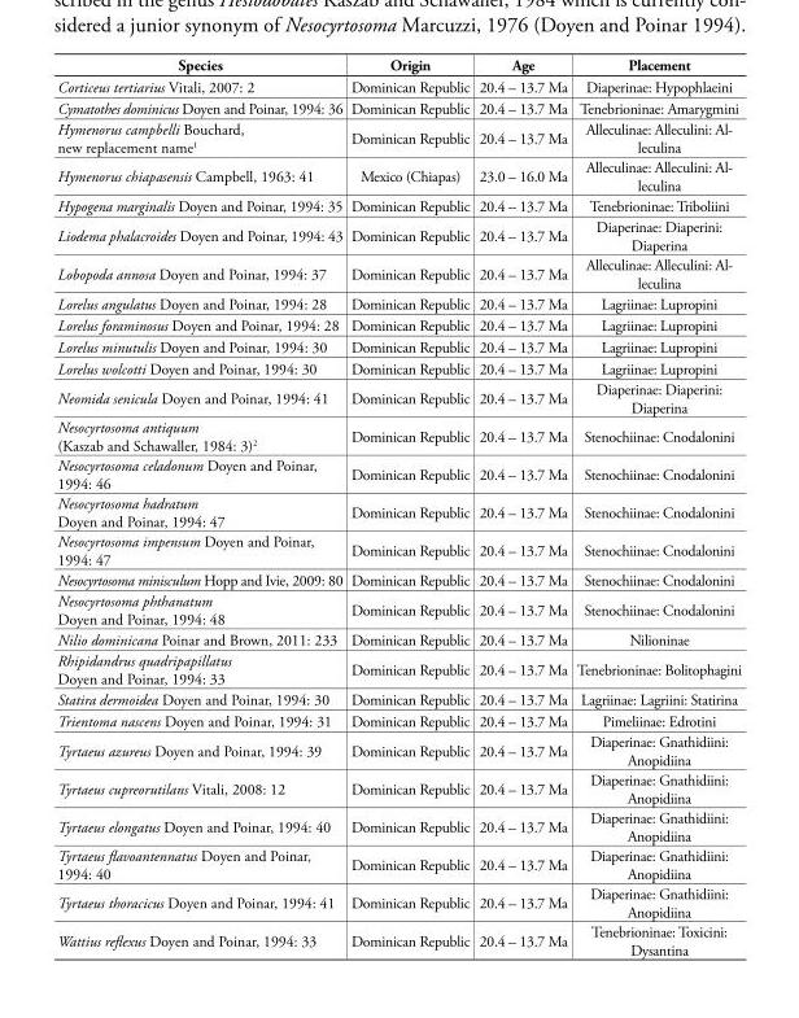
<table><thead><tr><td>Species</td><td>Origin</td><td>Age</td><td>Placement</td></tr></thead><tbody><tr><td>Corticeus tertiarius Vitali, 2007: 2</td><td>Dominican Republic</td><td>20.4 – 13.7 Ma</td><td>Diaperinae: Hypophlaeini</td></tr><tr><td>Cymatothes dominicus Doyen and Poinar, 1994: 36</td><td>Dominican Republic</td><td>20.4 – 13.7 Ma</td><td>Tenebrioninae: Amarygmini</td></tr><tr><td>Hymenorus campbelli Bouchard, new replacement name<sup>1</sup></td><td>Dominican Republic</td><td>20.4 – 13.7 Ma</td><td>Alleculinae: Alleculini: Al- leculina</td></tr><tr><td>Hymenorus chiapasensis Campbell, 1963: 41</td><td>Mexico (Chiapas)</td><td>23.0 – 16.0 Ma</td><td>Alleculinae: Alleculini: Al- leculina</td></tr><tr><td>Hypogena marginalis Doyen and Poinar, 1994: 35</td><td>Dominican Republic</td><td>20.4 – 13.7 Ma</td><td>Tenebrioninae: Triboliini</td></tr><tr><td>Liodema phalacroides Doyen and Poinar, 1994: 43</td><td>Dominican Republic</td><td>20.4 – 13.7 Ma</td><td>Diaperinae: Diaperini: Diaperina</td></tr><tr><td>Lobopoda annosa Doyen and Poinar, 1994: 37</td><td>Dominican Republic</td><td>20.4 – 13.7 Ma</td><td>Alleculinae: Alleculini: Al- leculina</td></tr><tr><td>Lorelus angulatus Doyen and Poinar, 1994: 28</td><td>Dominican Republic</td><td>20.4 – 13.7 Ma</td><td>Lagriinae: Lupropini</td></tr><tr><td>Lorelus foraminosus Doyen and Poinar, 1994: 28</td><td>Dominican Republic</td><td>20.4 – 13.7 Ma</td><td>Lagriinae: Lupropini</td></tr><tr><td>Lorelus minutulis Doyen and Poinar, 1994: 30</td><td>Dominican Republic</td><td>20.4 – 13.7 Ma</td><td>Lagriinae: Lupropini</td></tr><tr><td>Lorelus wolcotti Doyen and Poinar, 1994: 30</td><td>Dominican Republic</td><td>20.4 – 13.7 Ma</td><td>Lagriinae: Lupropini</td></tr><tr><td>Neomida senicula Doyen and Poinar, 1994: 41</td><td>Dominican Republic</td><td>20.4 – 13.7 Ma</td><td>Diaperinae: Diaperini: Diaperina</td></tr><tr><td>Nesocyrtosoma antiquum (Kaszab and Schawaller, 1984: 3)<sup>2</sup></td><td>Dominican Republic</td><td>20.4 – 13.7 Ma</td><td>Stenochiinae: Cnodalonini</td></tr><tr><td>Nesocyrtosoma celadonum Doyen and Poinar, 1994: 46</td><td>Dominican Republic</td><td>20.4 – 13.7 Ma</td><td>Stenochiinae: Cnodalonini</td></tr><tr><td>Nesocyrtosoma hadratum Doyen and Poinar, 1994: 47</td><td>Dominican Republic</td><td>20.4 – 13.7 Ma</td><td>Stenochiinae: Cnodalonini</td></tr><tr><td>Nesocyrtosoma impensum Doyen and Poinar, 1994: 47</td><td>Dominican Republic</td><td>20.4 – 13.7 Ma</td><td>Stenochiinae: Cnodalonini</td></tr><tr><td>Nesocyrtosoma minisculum Hopp and Ivie, 2009: 80</td><td>Dominican Republic</td><td>20.4 – 13.7 Ma</td><td>Stenochiinae: Cnodalonini</td></tr><tr><td>Nesocyrtosoma phthanatum Doyen and Poinar, 1994: 48</td><td>Dominican Republic</td><td>20.4 – 13.7 Ma</td><td>Stenochiinae: Cnodalonini</td></tr><tr><td>Nilio dominicana Poinar and Brown, 2011: 233</td><td>Dominican Republic</td><td>20.4 – 13.7 Ma</td><td>Nilioninae</td></tr><tr><td>Rhipidandrus quadripapillatus Doyen and Poinar, 1994: 33</td><td>Dominican Republic</td><td>20.4 – 13.7 Ma</td><td>Tenebrioninae: Bolitophagini</td></tr><tr><td>Statira dermoidea Doyen and Poinar, 1994: 30</td><td>Dominican Republic</td><td>20.4 – 13.7 Ma</td><td>Lagriinae: Lagriini: Statirina</td></tr><tr><td>Trientoma nascens Doyen and Poinar, 1994: 31</td><td>Dominican Republic</td><td>20.4 – 13.7 Ma</td><td>Pimeliinae: Edrotini</td></tr><tr><td>Tyrtaeus azureus Doyen and Poinar, 1994: 39</td><td>Dominican Republic</td><td>20.4 – 13.7 Ma</td><td>Diaperinae: Gnathidiini: Anopidiina</td></tr><tr><td>Tyrtaeus cupreorutilans Vitali, 2008: 12</td><td>Dominican Republic</td><td>20.4 – 13.7 Ma</td><td>Diaperinae: Gnathidiini: Anopidiina</td></tr><tr><td>Tyrtaeus elongatus Doyen and Poinar, 1994: 40</td><td>Dominican Republic</td><td>20.4 – 13.7 Ma</td><td>Diaperinae: Gnathidiini: Anopidiina</td></tr><tr><td>Tyrtaeus flavoantennatus Doyen and Poinar, 1994: 40</td><td>Dominican Republic</td><td>20.4 – 13.7 Ma</td><td>Diaperinae: Gnathidiini: Anopidiina</td></tr><tr><td>Tyrtaeus thoracicus Doyen and Poinar, 1994: 41</td><td>Dominican Republic</td><td>20.4 – 13.7 Ma</td><td>Diaperinae: Gnathidiini: Anopidiina</td></tr><tr><td>Wattius reflexus Doyen and Poinar, 1994: 33</td><td>Dominican Republic</td><td>20.4 – 13.7 Ma</td><td>Tenebrioninae: Toxicini: Dysantina</td></tr></tbody></table>